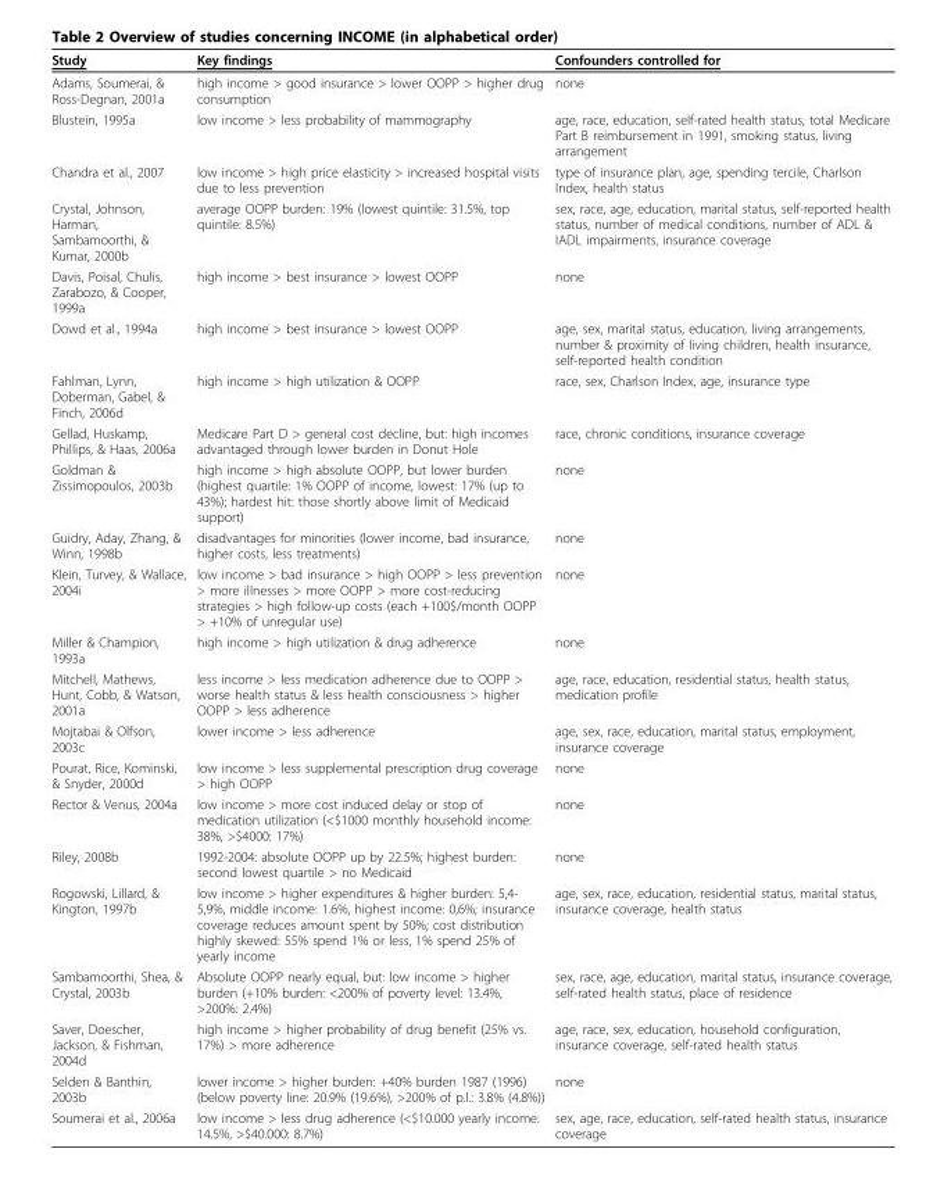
<table><thead><tr><td>Study</td><td>Key findings</td><td>Confounders controlled for</td></tr></thead><tbody><tr><td>Adams, Soumerai, &amp; Ross-Degnan, 2001a</td><td>high income &gt; good insurance &gt; lower OOPP &gt; higher drug consumption</td><td>none</td></tr><tr><td>Blustein, 1995a</td><td>low income &gt; less probability of mammography</td><td>age, race, education, self-rated health status, total Medicare Part B reimbursement in 1991, smoking status, living arrangement</td></tr><tr><td>Chandra et al., 2007</td><td>low income &gt; high price elasticity &gt; increased hospital visits due to less prevention</td><td>type of insurance plan, age, spending tercile, Charlson Index, health status</td></tr><tr><td>Crystal, Johnson, Harman, Sambamoorthi, &amp; Kumar, 2000b</td><td>average OOPP burden: 19% (lowest quintile: 31.5%, top quintile: 8.5%)</td><td>sex, race, age, education, marital status, self-reported health status, number of medical conditions, number of ADL &amp; IADL impairments, insurance coverage</td></tr><tr><td>Davis, Poisal, Chulis, Zarabozo, &amp; Cooper, 1999a</td><td>high income &gt; best insurance &gt; lowest OOPP</td><td>none</td></tr><tr><td>Dowd et al., 1994a</td><td>high income &gt; best insurance &gt; lowest OOPP</td><td>age, sex, marital status, education, living arrangements, number &amp; proximity of living children, health insurance, self-reported health condition</td></tr><tr><td>Fahlman, Lynn, Doberman, Gabel, &amp; Finch, 2006d</td><td>high income &gt; high utilization &amp; OOPP</td><td>race, sex, Charlson Index, age, insurance type</td></tr><tr><td>Gellad, Huskamp, Phillips, &amp; Haas, 2006a</td><td>Medicare Part D &gt; general cost decline, but: high incomes advantaged through lower burden in Donut Hole</td><td>race, chronic conditions, insurance coverage</td></tr><tr><td>Goldman &amp; Zissimopoulos, 2003b</td><td>high income &gt; high absolute OOPP, but lower burden (highest quartile: 1% OOPP of income, lowest: 17% (up to 43%); hardest hit: those shortly above limit of Medicaid support)</td><td>none</td></tr><tr><td>Guidry, Aday, Zhang, &amp; Winn, 1998b</td><td>disadvantages for minorities (lower income, bad insurance, higher costs, less treatments)</td><td>none</td></tr><tr><td>Klein, Turvey, &amp; Wallace, 2004i</td><td>low income &gt; bad insurance &gt; high OOPP &gt; less prevention &gt; more illnesses &gt; more OOPP &gt; more cost-reducing strategies &gt; high follow-up costs (each +100$/month OOPP &gt; +10% of unregular use)</td><td>none</td></tr><tr><td>Miller &amp; Champion, 1993a</td><td>high income &gt; high utilization &amp; drug adherence</td><td>none</td></tr><tr><td>Mitchell, Mathews, Hunt, Cobb, &amp; Watson, 2001a</td><td>less income &gt; less medication adherence due to OOPP &gt; worse health status &amp; less health consciousness &gt; higher OOPP &gt; less adherence</td><td>age, race, education, residential status, health status, medication profile</td></tr><tr><td>Mojtabai &amp; Olfson, 2003c</td><td>lower income &gt; less adherence</td><td>age, sex, race, education, marital status, employment, insurance coverage</td></tr><tr><td>Pourat, Rice, Kominski, &amp; Snyder, 2000d</td><td>low income &gt; less supplemental prescription drug coverage &gt; high OOPP</td><td>none</td></tr><tr><td>Rector &amp; Venus, 2004a</td><td>low income &gt; more cost induced delay or stop of medication utilization (&lt;$1000 monthly household income: 38%, &gt;$4000: 17%)</td><td>none</td></tr><tr><td>Riley, 2008b</td><td>1992-2004: absolute OOPP up by 22.5%; highest burden: second lowest quartile &gt; no Medicaid</td><td>none</td></tr><tr><td>Rogowski, Lillard, &amp; Kington, 1997b</td><td>low income &gt; higher expenditures &amp; higher burden: 5,4- 5,9%, middle income: 1.6%, highest income: 0,6%; insurance coverage reduces amount spent by 50%; cost distribution highly skewed: 55% spend 1% or less, 1% spend 25% of yearly income</td><td>age, sex, race, education, residential status, marital status, insurance coverage, health status</td></tr><tr><td>Sambamoorthi, Shea, &amp; Crystal, 2003b</td><td>Absolute OOPP nearly equal, but: low income &gt; higher burden (+10% burden: &lt;200% of poverty level: 13.4%, &gt;200%: 2.4%)</td><td>sex, race, age, education, marital status, insurance coverage, self-rated health status, place of residence</td></tr><tr><td>Saver, Doescher, Jackson, &amp; Fishman, 2004d</td><td>high income &gt; higher probability of drug benefit (25% vs. 17%) &gt; more adherence</td><td>age, race, sex, education, household configuration, insurance coverage, self-rated health status</td></tr><tr><td>Selden &amp; Banthin, 2003b</td><td>lower income &gt; higher burden: +40% burden 1987 (1996) (below poverty line: 20.9% (19.6%), &gt;200% of p.l.: 3.8% (4.8%))</td><td>none</td></tr><tr><td>Soumerai et al., 2006a</td><td>low income &gt; less drug adherence (&lt;$10.000 yearly income: 14.5%, &gt;$40.000: 8.7%)</td><td>sex, age, race, education, self-rated health status, insurance coverage</td></tr></tbody></table>